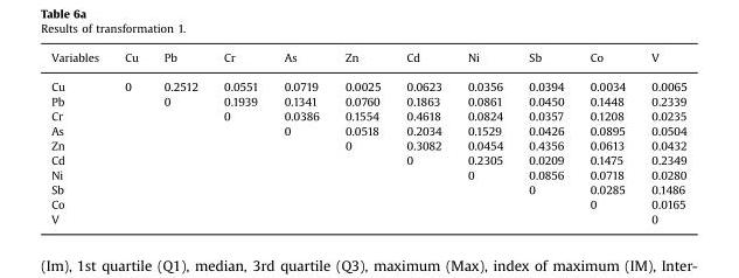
<table><thead><tr><td>Variables</td><td>Cu</td><td>Pb</td><td>Cr</td><td>As</td><td>Zn</td><td>Cd</td><td>Ni</td><td>Sb</td><td>Co</td><td>V</td></tr></thead><tbody><tr><td>Cu</td><td>0</td><td>0.2512</td><td>0.0551</td><td>0.0719</td><td>0.0025</td><td>0.0623</td><td>0.0356</td><td>0.0394</td><td>0.0034</td><td>0.0065</td></tr><tr><td>Pb</td><td></td><td>0</td><td>0.1939</td><td>0.1341</td><td>0.0760</td><td>0.1863</td><td>0.0861</td><td>0.0450</td><td>0.1448</td><td>0.2339</td></tr><tr><td>Cr</td><td></td><td></td><td>0</td><td>0.0386</td><td>0.1554</td><td>0.4618</td><td>0.0824</td><td>0.0357</td><td>0.1208</td><td>0.0235</td></tr><tr><td>As</td><td></td><td></td><td></td><td>0</td><td>0.0518</td><td>0.2034</td><td>0.1529</td><td>0.0426</td><td>0.0895</td><td>0.0504</td></tr><tr><td>Zn</td><td></td><td></td><td></td><td></td><td>0</td><td>0.3082</td><td>0.0454</td><td>0.4356</td><td>0.0613</td><td>0.0432</td></tr><tr><td>Cd</td><td></td><td></td><td></td><td></td><td></td><td>0</td><td>0.2305</td><td>0.0209</td><td>0.1475</td><td>0.2349</td></tr><tr><td>Ni</td><td></td><td></td><td></td><td></td><td></td><td></td><td>0</td><td>0.0856</td><td>0.0718</td><td>0.0280</td></tr><tr><td>Sb</td><td></td><td></td><td></td><td></td><td></td><td></td><td></td><td>0</td><td>0.0285</td><td>0.1486</td></tr><tr><td>Co</td><td></td><td></td><td></td><td></td><td></td><td></td><td></td><td></td><td>0</td><td>0.0165</td></tr><tr><td>V</td><td></td><td></td><td></td><td></td><td></td><td></td><td></td><td></td><td></td><td>0</td></tr></tbody></table>